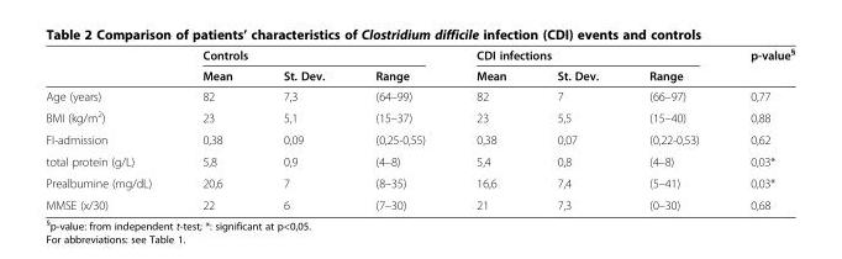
<table><thead><tr><td rowspan="2"></td><td colspan="3">Controls</td><td colspan="3">CDI infections</td><td rowspan="2">p-value<sup>§</sup></td></tr><tr><td>Mean</td><td>St. Dev.</td><td>Range</td><td>Mean</td><td>St. Dev.</td><td>Range</td></tr></thead><tbody><tr><td>Age (years)</td><td>82</td><td>7,3</td><td>(64–99)</td><td>82</td><td>7</td><td>(66–97)</td><td>0,77</td></tr><tr><td>BMI (kg/m<sup>2</sup>)</td><td>23</td><td>5,1</td><td>(15–37)</td><td>23</td><td>5,5</td><td>(15–40)</td><td>0,88</td></tr><tr><td>FI-admission</td><td>0,38</td><td>0,09</td><td>(0,25-0,55)</td><td>0,38</td><td>0,07</td><td>(0,22-0,53)</td><td>0,62</td></tr><tr><td>total protein (g/L)</td><td>5,8</td><td>0,9</td><td>(4–8)</td><td>5,4</td><td>0,8</td><td>(4–8)</td><td>0,03*</td></tr><tr><td>Prealbumine (mg/dL)</td><td>20,6</td><td>7</td><td>(8–35)</td><td>16,6</td><td>7,4</td><td>(5–41)</td><td>0,03*</td></tr><tr><td>MMSE (x/30)</td><td>22</td><td>6</td><td>(7–30)</td><td>21</td><td>7,3</td><td>(0–30)</td><td>0,68</td></tr></tbody></table>